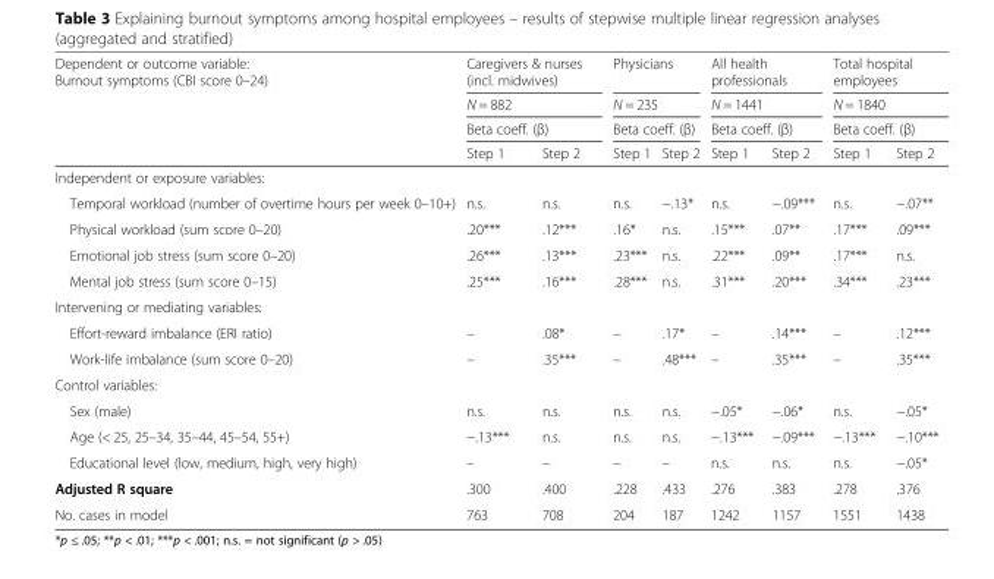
<table><thead><tr><td rowspan="4">Dependent or outcome variable: Burnout symptoms (CBI score 0–24)</td><td rowspan="3" colspan="2">Caregivers &amp; nurses (incl. midwives) N = 882 Beta coeff. (β)</td><td rowspan="3" colspan="2">Physicians N = 235 Beta coeff. (β)</td><td rowspan="3" colspan="2">All health professionals N = 1441 Beta coeff. (β)</td><td rowspan="3" colspan="2">Total hospital employees N = 1840 Beta coeff. (β)</td></tr><tr></tr><tr></tr><tr><td>Step 1</td><td>Step 2</td><td>Step 1</td><td>Step 2</td><td>Step 1</td><td>Step 2</td><td>Step 1</td><td>Step 2</td></tr></thead><tbody><tr><td colspan="9">Independent or exposure variables:</td></tr><tr><td>Temporal workload (number of overtime hours per week 0–10+)</td><td>n.s.</td><td>n.s.</td><td>n.s.</td><td>−.13*</td><td>n.s.</td><td>−.09***</td><td>n.s.</td><td>−.07**</td></tr><tr><td>Physical workload (sum score 0–20)</td><td>.20***</td><td>.12***</td><td>.16*</td><td>n.s.</td><td>.15***</td><td>.07**</td><td>.17***</td><td>.09***</td></tr><tr><td>Emotional job stress (sum score 0–20)</td><td>.26***</td><td>.13***</td><td>.23***</td><td>n.s.</td><td>.22***</td><td>.09**</td><td>.17***</td><td>n.s.</td></tr><tr><td>Mental job stress (sum score 0–15)</td><td>.25***</td><td>.16***</td><td>.28***</td><td>n.s.</td><td>.31***</td><td>.20***</td><td>.34***</td><td>.23***</td></tr><tr><td colspan="9">Intervening or mediating variables:</td></tr><tr><td>Effort-reward imbalance (ERI ratio)</td><td>–</td><td>.08*</td><td>–</td><td>.17*</td><td>–</td><td>.14***</td><td>–</td><td>.12***</td></tr><tr><td>Work-life imbalance (sum score 0–20)</td><td>–</td><td>.35***</td><td>–</td><td>.48***</td><td>–</td><td>.35***</td><td>–</td><td>.35***</td></tr><tr><td colspan="9">Control variables:</td></tr><tr><td>Sex (male)</td><td>n.s.</td><td>n.s.</td><td>n.s.</td><td>n.s.</td><td>−.05*</td><td>−.06*</td><td>n.s.</td><td>−.05*</td></tr><tr><td>Age (&lt; 25, 25–34, 35–44, 45–54, 55+)</td><td>−.13***</td><td>n.s.</td><td>n.s.</td><td>n.s.</td><td>−.13***</td><td>−.09***</td><td>−.13***</td><td>−.10***</td></tr><tr><td>Educational level (low, medium, high, very high)</td><td>–</td><td>–</td><td>–</td><td>–</td><td>n.s.</td><td>n.s.</td><td>n.s.</td><td>−.05*</td></tr><tr><td>Adjusted R square</td><td>.300</td><td>.400</td><td>.228</td><td>.433</td><td>.276</td><td>.383</td><td>.278</td><td>.376</td></tr><tr><td>No. cases in model</td><td>763</td><td>708</td><td>204</td><td>187</td><td>1242</td><td>1157</td><td>1551</td><td>1438</td></tr></tbody></table>